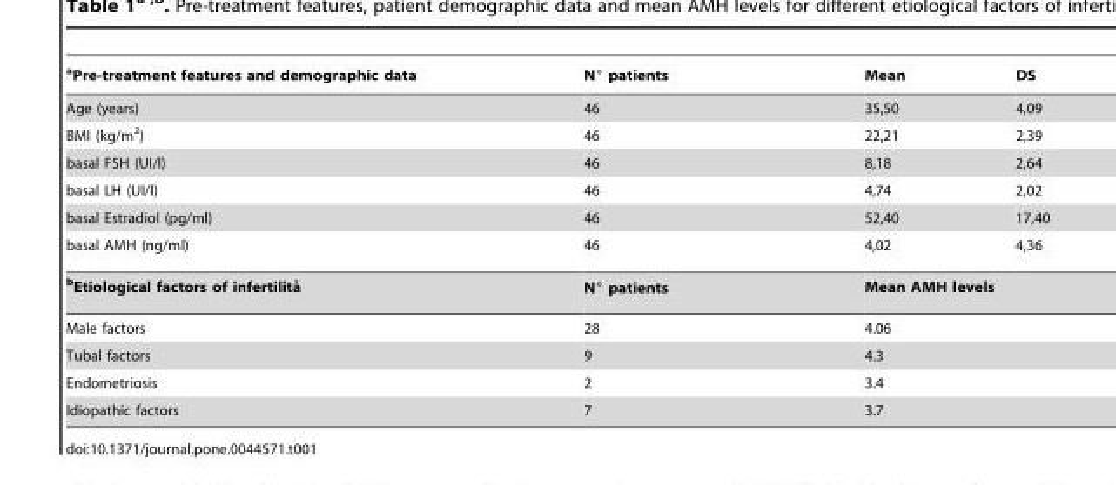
<table><thead><tr><td><sup>a</sup>Pre-treatment features and demographic data</td><td>N° patients</td><td>Mean</td><td>DS</td></tr></thead><tbody><tr><td>Age (years)</td><td>46</td><td>35,50</td><td>4,09</td></tr><tr><td>BMI (kg/m<sup>2</sup>)</td><td>46</td><td>22,21</td><td>2,39</td></tr><tr><td>basal FSH (UI/l)</td><td>46</td><td>8,18</td><td>2,64</td></tr><tr><td>basal LH (UI/l)</td><td>46</td><td>4,74</td><td>2,02</td></tr><tr><td>basal Estradiol (pg/ml)</td><td>46</td><td>52,40</td><td>17,40</td></tr><tr><td>basal AMH (ng/ml)</td><td>46</td><td>4,02</td><td>4,36</td></tr><tr><td>bEtiological factors of infertilita`</td><td>N° patients</td><td colspan="2">Mean AMH levels</td></tr><tr><td>Male factors</td><td>28</td><td colspan="2">4.06</td></tr><tr><td>Tubal factors</td><td>9</td><td colspan="2">4.3</td></tr><tr><td>Endometriosis</td><td>2</td><td colspan="2">3.4</td></tr><tr><td>Idiopathic factors</td><td>7</td><td colspan="2">3.7</td></tr></tbody></table>